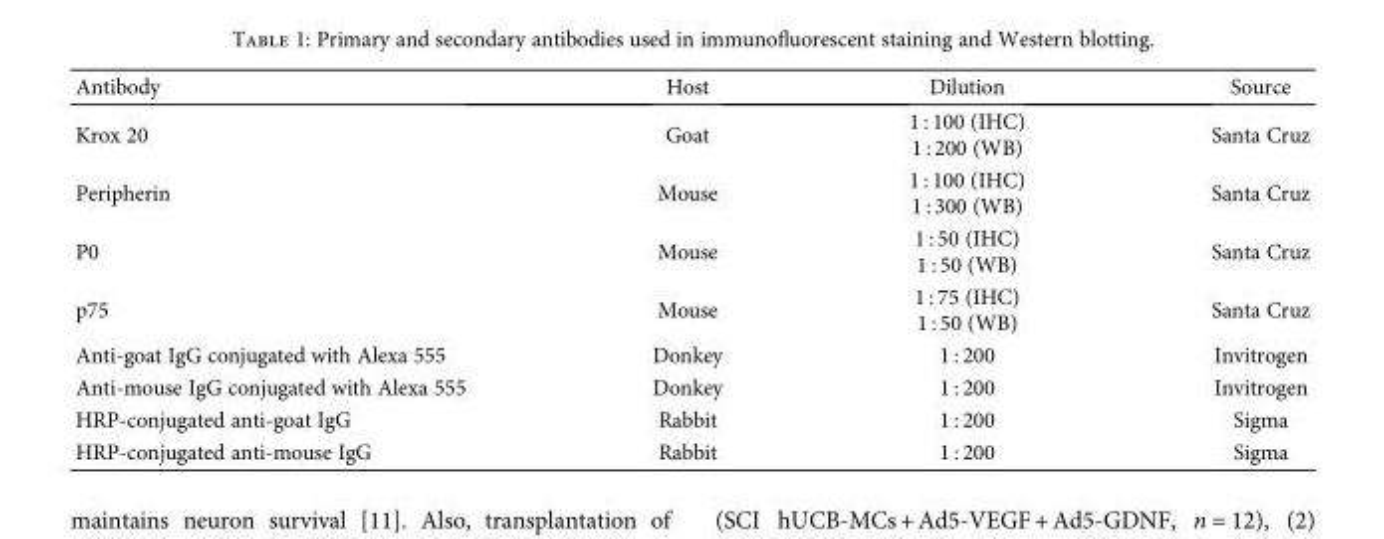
<table><thead><tr><td>Antibody</td><td>Host</td><td>Dilution</td><td>Source</td></tr></thead><tbody><tr><td>Krox 20</td><td>Goat</td><td>1 : 100 (IHC) 1 : 200 (WB)</td><td>Santa Cruz</td></tr><tr><td>Peripherin</td><td>Mouse</td><td>1 : 100 (IHC) 1 : 300 (WB)</td><td>Santa Cruz</td></tr><tr><td>P0</td><td>Mouse</td><td>1 : 50 (IHC) 1 : 50 (WB)</td><td>Santa Cruz</td></tr><tr><td>p75</td><td>Mouse</td><td>1 : 75 (IHC) 1 : 50 (WB)</td><td>Santa Cruz</td></tr><tr><td>Anti-goat IgG conjugated with Alexa 555</td><td>Donkey</td><td>1 : 200</td><td>Invitrogen</td></tr><tr><td>Anti-mouse IgG conjugated with Alexa 555</td><td>Donkey</td><td>1 : 200</td><td>Invitrogen</td></tr><tr><td>HRP-conjugated anti-goat IgG</td><td>Rabbit</td><td>1 : 200</td><td>Sigma</td></tr><tr><td>HRP-conjugated anti-mouse IgG</td><td>Rabbit</td><td>1 : 200</td><td>Sigma</td></tr></tbody></table>